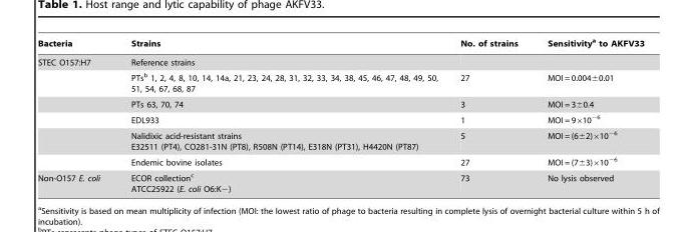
<table><thead><tr><td>Bacteria</td><td>Strains</td><td>No. of strains</td><td>Sensitivity<sup>a</sup> to AKFV33</td></tr></thead><tbody><tr><td rowspan="6">STEC O157:H7</td><td>Reference strains</td><td></td><td></td></tr><tr><td>PTs<sup>b</sup> 1, 2, 4, 8, 10, 14, 14a, 21, 23, 24, 28, 31, 32, 33, 34, 38, 45, 46, 47, 48, 49, 50, 51, 54, 67, 68, 87</td><td>27</td><td>MOI = 0.004±0.01</td></tr><tr><td>PTs 63, 70, 74</td><td>3</td><td>MOI = 3±0.4</td></tr><tr><td>EDL933</td><td>1</td><td>MOI = 9×10<sup>−6</sup></td></tr><tr><td>Nalidixic acid-resistant strains E32511 (PT4), CO281-31N (PT8), R508N (PT14), E318N (PT31), H4420N (PT87)</td><td>5</td><td>MOI = (6±2)×10<sup>−6</sup></td></tr><tr><td>Endemic bovine isolates</td><td>27</td><td>MOI = (7±3)×10<sup>−6</sup></td></tr><tr><td>Non-O157 E. coli</td><td>ECOR collection<sup>c</sup> ATCC25922 (E. coli O6:K−)</td><td>73</td><td>No lysis observed</td></tr></tbody></table>